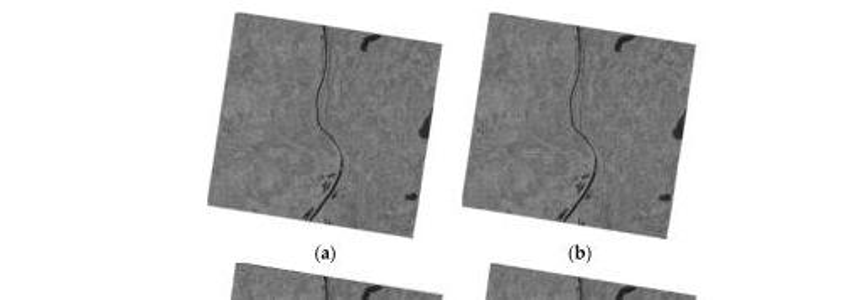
<table><thead><tr><td>Image Sensor</td><td>TerraSAR-X</td><td>TerraSAR-X</td><td>Envisat-ASAR</td></tr></thead><tbody><tr><td>Acquisition Time</td><td>27 January 2008</td><td>21 March 2008</td><td>6 August 2008</td></tr><tr><td>Center Longitude (°)</td><td>12.14</td><td>131.02</td><td>104.39</td></tr><tr><td>Center Latitude (°)</td><td>47.68</td><td>–25.34</td><td>31.76</td></tr><tr><td>Image Size (azimuth × range)</td><td>8330 × 9504</td><td>15,328 × 32,686</td><td>155,688 × 5158</td></tr><tr><td>Pixel Size (m)</td><td>1.2 × 1.9</td><td>1.3 × 1.8</td><td>4.1 × 19.9</td></tr><tr><td>Altitude Range (m)</td><td>436–604</td><td>726–2793</td><td>48–4133</td></tr><tr><td>Topography</td><td>Flat</td><td>Mountain</td><td>Flat, Mountain</td></tr></tbody></table>